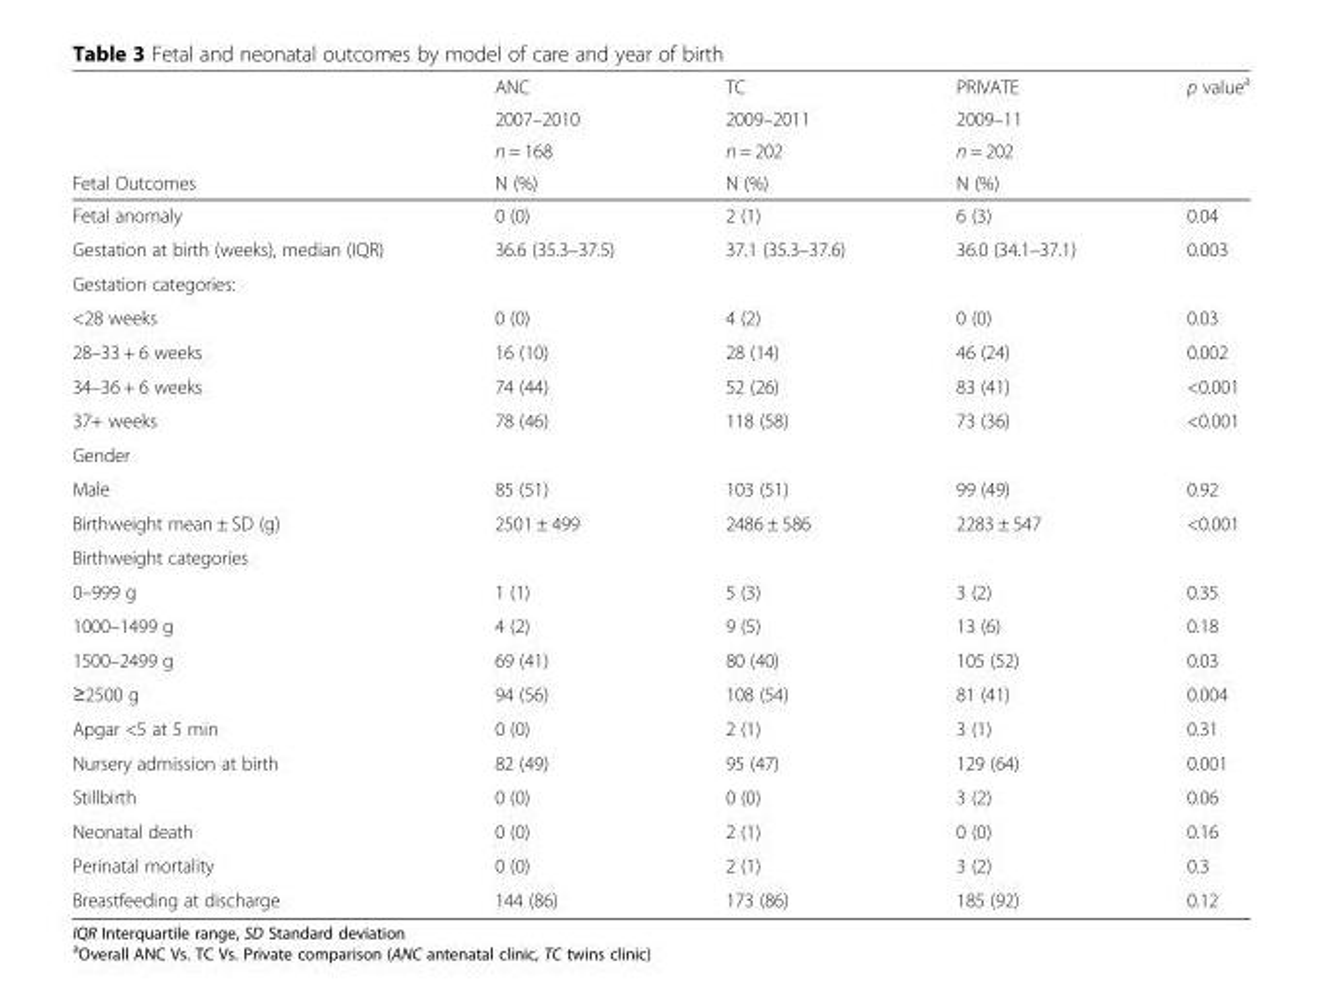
<table><thead><tr><td rowspan="4">Fetal Outcomes</td><td rowspan="4">ANC 2007–2010 n = 168 N (%)</td><td rowspan="4">TC 2009–2011 n = 202 N (%)</td><td rowspan="4">PRIVATE 2009–11 n = 202 N (%)</td><td rowspan="4">p value<sup>a</sup></td></tr><tr></tr><tr></tr><tr></tr></thead><tbody><tr><td>Fetal anomaly</td><td>0 (0)</td><td>2 (1)</td><td>6 (3)</td><td>0.04</td></tr><tr><td>Gestation at birth (weeks), median (IQR)</td><td>36.6 (35.3–37.5)</td><td>37.1 (35.3–37.6)</td><td>36.0 (34.1–37.1)</td><td>0.003</td></tr><tr><td colspan="5">Gestation categories:</td></tr><tr><td>&lt;28 weeks</td><td>0 (0)</td><td>4 (2)</td><td>0 (0)</td><td>0.03</td></tr><tr><td>28–33 + 6 weeks</td><td>16 (10)</td><td>28 (14)</td><td>46 (24)</td><td>0.002</td></tr><tr><td>34–36 + 6 weeks</td><td>74 (44)</td><td>52 (26)</td><td>83 (41)</td><td>&lt;0.001</td></tr><tr><td>37+ weeks</td><td>78 (46)</td><td>118 (58)</td><td>73 (36)</td><td>&lt;0.001</td></tr><tr><td colspan="5">Gender</td></tr><tr><td>Male</td><td>85 (51)</td><td>103 (51)</td><td>99 (49)</td><td>0.92</td></tr><tr><td>Birthweight mean ± SD (g)</td><td>2501 ± 499</td><td>2486 ± 586</td><td>2283 ± 547</td><td>&lt;0.001</td></tr><tr><td colspan="5">Birthweight categories</td></tr><tr><td>0–999 g</td><td>1 (1)</td><td>5 (3)</td><td>3 (2)</td><td>0.35</td></tr><tr><td>1000–1499 g</td><td>4 (2)</td><td>9 (5)</td><td>13 (6)</td><td>0.18</td></tr><tr><td>1500–2499 g</td><td>69 (41)</td><td>80 (40)</td><td>105 (52)</td><td>0.03</td></tr><tr><td>≥2500 g</td><td>94 (56)</td><td>108 (54)</td><td>81 (41)</td><td>0.004</td></tr><tr><td>Apgar &lt;5 at 5 min</td><td>0 (0)</td><td>2 (1)</td><td>3 (1)</td><td>0.31</td></tr><tr><td>Nursery admission at birth</td><td>82 (49)</td><td>95 (47)</td><td>129 (64)</td><td>0.001</td></tr><tr><td>Stillbirth</td><td>0 (0)</td><td>0 (0)</td><td>3 (2)</td><td>0.06</td></tr><tr><td>Neonatal death</td><td>0 (0)</td><td>2 (1)</td><td>0 (0)</td><td>0.16</td></tr><tr><td>Perinatal mortality</td><td>0 (0)</td><td>2 (1)</td><td>3 (2)</td><td>0.3</td></tr><tr><td>Breastfeeding at discharge</td><td>144 (86)</td><td>173 (86)</td><td>185 (92)</td><td>0.12</td></tr></tbody></table>